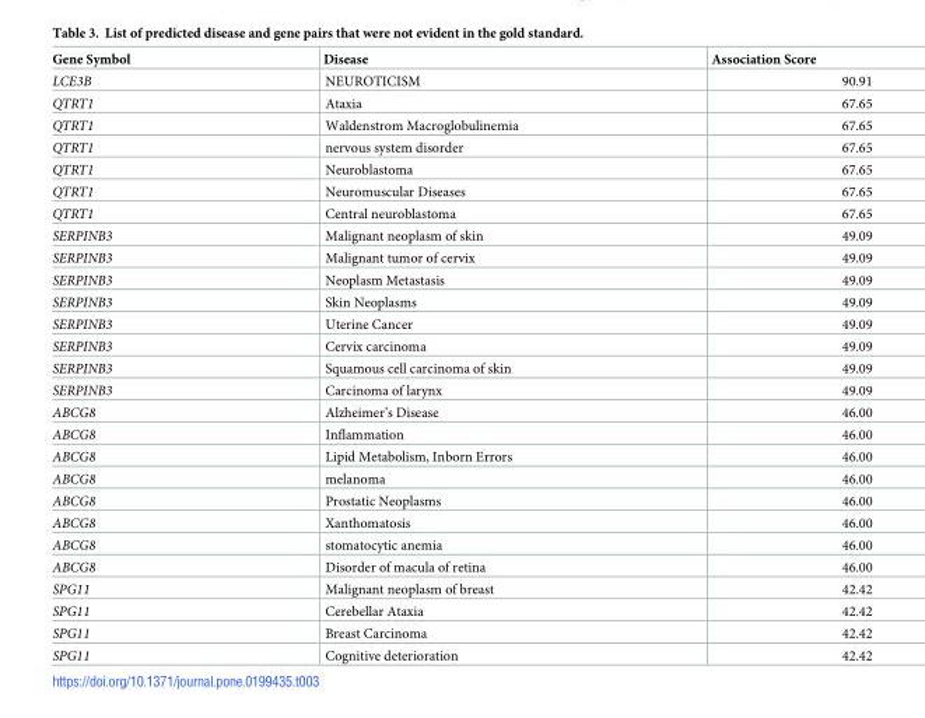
<table><thead><tr><td>Gene Symbol</td><td>Disease</td><td>Association Score</td></tr></thead><tbody><tr><td>LCE3B</td><td>NEUROTICISM</td><td>90.91</td></tr><tr><td>QTRT1</td><td>Ataxia</td><td>67.65</td></tr><tr><td>QTRT1</td><td>Waldenstrom Macroglobulinemia</td><td>67.65</td></tr><tr><td>QTRT1</td><td>nervous system disorder</td><td>67.65</td></tr><tr><td>QTRT1</td><td>Neuroblastoma</td><td>67.65</td></tr><tr><td>QTRT1</td><td>Neuromuscular Diseases</td><td>67.65</td></tr><tr><td>QTRT1</td><td>Central neuroblastoma</td><td>67.65</td></tr><tr><td>SERPINB3</td><td>Malignant neoplasm of skin</td><td>49.09</td></tr><tr><td>SERPINB3</td><td>Malignant tumor of cervix</td><td>49.09</td></tr><tr><td>SERPINB3</td><td>Neoplasm Metastasis</td><td>49.09</td></tr><tr><td>SERPINB3</td><td>Skin Neoplasms</td><td>49.09</td></tr><tr><td>SERPINB3</td><td>Uterine Cancer</td><td>49.09</td></tr><tr><td>SERPINB3</td><td>Cervix carcinoma</td><td>49.09</td></tr><tr><td>SERPINB3</td><td>Squamous cell carcinoma of skin</td><td>49.09</td></tr><tr><td>SERPINB3</td><td>Carcinoma of larynx</td><td>49.09</td></tr><tr><td>ABCG8</td><td>Alzheimer’s Disease</td><td>46.00</td></tr><tr><td>ABCG8</td><td>Inflammation</td><td>46.00</td></tr><tr><td>ABCG8</td><td>Lipid Metabolism, Inborn Errors</td><td>46.00</td></tr><tr><td>ABCG8</td><td>melanoma</td><td>46.00</td></tr><tr><td>ABCG8</td><td>Prostatic Neoplasms</td><td>46.00</td></tr><tr><td>ABCG8</td><td>Xanthomatosis</td><td>46.00</td></tr><tr><td>ABCG8</td><td>stomatocytic anemia</td><td>46.00</td></tr><tr><td>ABCG8</td><td>Disorder of macula of retina</td><td>46.00</td></tr><tr><td>SPG11</td><td>Malignant neoplasm of breast</td><td>42.42</td></tr><tr><td>SPG11</td><td>Cerebellar Ataxia</td><td>42.42</td></tr><tr><td>SPG11</td><td>Breast Carcinoma</td><td>42.42</td></tr><tr><td>SPG11</td><td>Cognitive deterioration</td><td>42.42</td></tr></tbody></table>